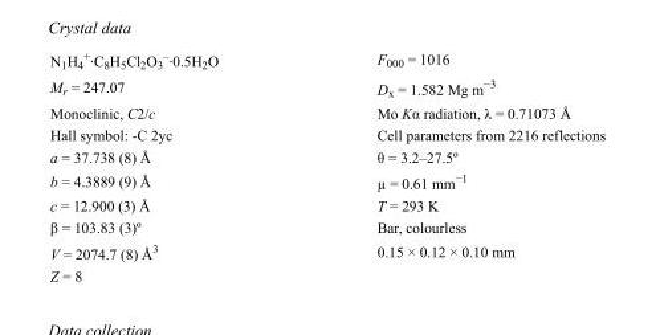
<table><tbody><tr><td>N1H4 +·C8H5Cl2O3 –·0.5H2O</td><td>F000 = 1016</td></tr><tr><td>M<sub>r</sub> = 247.07</td><td>D<sub>x</sub> = 1.582 Mg m<sup>−3</sup></td></tr><tr><td>Monoclinic, C2/c</td><td>Mo Kα radiation, λ = 0.71073 Å</td></tr><tr><td>Hall symbol: -C 2yc</td><td>Cell parameters from 2216 reflections</td></tr><tr><td>a = 37.738 (8) Å</td><td>θ = 3.2–27.5º</td></tr><tr><td>b = 4.3889 (9) Å</td><td>µ = 0.61 mm<sup>−1</sup></td></tr><tr><td>c = 12.900 (3) Å</td><td>T = 293 K</td></tr><tr><td>β = 103.83 (3)º</td><td>Bar, colourless</td></tr><tr><td>V = 2074.7 (8) Å<sup>3</sup></td><td>0.15 × 0.12 × 0.10 mm</td></tr><tr><td>Z = 8</td><td></td></tr></tbody></table>